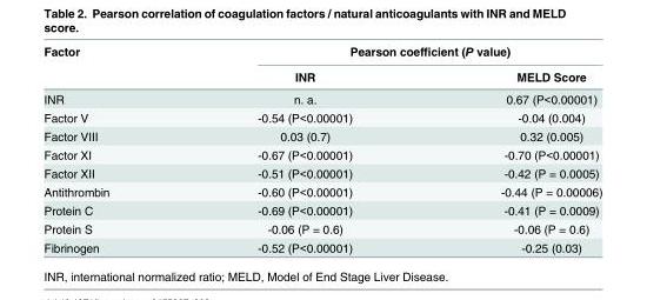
<table><thead><tr><td rowspan="2">Factor</td><td colspan="2">Pearson coefficient (P value)</td></tr><tr><td>INR</td><td>MELD Score</td></tr></thead><tbody><tr><td>INR</td><td>n. a.</td><td>0.67 (P&lt;0.00001)</td></tr><tr><td>Factor V</td><td>-0.54 (P&lt;0.00001)</td><td>-0.04 (0.004)</td></tr><tr><td>Factor VIII</td><td>0.03 (0.7)</td><td>0.32 (0.005)</td></tr><tr><td>Factor XI</td><td>-0.67 (P&lt;0.00001)</td><td>-0.70 (P&lt;0.00001)</td></tr><tr><td>Factor XII</td><td>-0.51 (P&lt;0.00001)</td><td>-0.42 (P = 0.0005)</td></tr><tr><td>Antithrombin</td><td>-0.60 (P&lt;0.00001)</td><td>-0.44 (P = 0.00006)</td></tr><tr><td>Protein C</td><td>-0.69 (P&lt;0.00001)</td><td>-0.41 (P = 0.0009)</td></tr><tr><td>Protein S</td><td>-0.06 (P = 0.6)</td><td>-0.06 (P = 0.6)</td></tr><tr><td>Fibrinogen</td><td>-0.52 (P&lt;0.00001)</td><td>-0.25 (0.03)</td></tr></tbody></table>